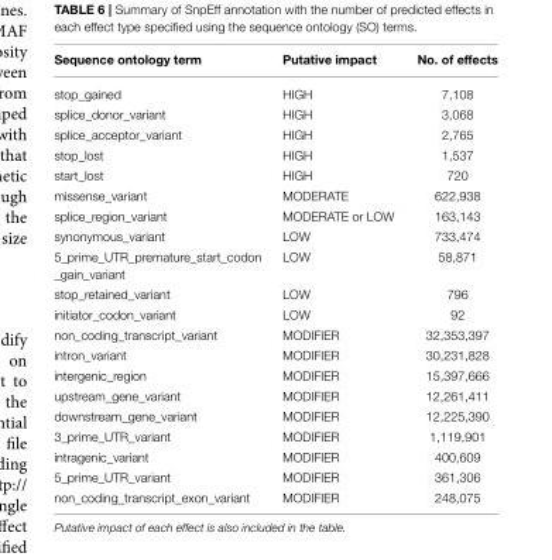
<table><thead><tr><td>Sequence ontology term</td><td>Putative impact</td><td>No. of effects</td></tr></thead><tbody><tr><td>stop_gained</td><td>HIGH</td><td>7,108</td></tr><tr><td>splice_donor_variant</td><td>HIGH</td><td>3,068</td></tr><tr><td>splice_acceptor_variant</td><td>HIGH</td><td>2,765</td></tr><tr><td>stop_lost</td><td>HIGH</td><td>1,537</td></tr><tr><td>start_lost</td><td>HIGH</td><td>720</td></tr><tr><td>missense_variant</td><td>MODERATE</td><td>622,938</td></tr><tr><td>splice_region_variant</td><td>MODERATE or LOW</td><td>163,143</td></tr><tr><td>synonymous_variant</td><td>LOW</td><td>733,474</td></tr><tr><td>5_prime_UTR_premature_start_codon _gain_variant</td><td>LOW</td><td>58,871</td></tr><tr><td>stop_retained_variant</td><td>LOW</td><td>796</td></tr><tr><td>initiator_codon_variant</td><td>LOW</td><td>92</td></tr><tr><td>non_coding_transcript_variant</td><td>MODIFIER</td><td>32,353,397</td></tr><tr><td>intron_variant</td><td>MODIFIER</td><td>30,231,828</td></tr><tr><td>intergenic_region</td><td>MODIFIER</td><td>15,397,666</td></tr><tr><td>upstream_gene_variant</td><td>MODIFIER</td><td>12,261,411</td></tr><tr><td>downstream_gene_variant</td><td>MODIFIER</td><td>12,225,390</td></tr><tr><td>3_prime_UTR_variant</td><td>MODIFIER</td><td>1,119,901</td></tr><tr><td>intragenic_variant</td><td>MODIFIER</td><td>400,609</td></tr><tr><td>5_prime_UTR_variant</td><td>MODIFIER</td><td>361,306</td></tr><tr><td>non_coding_transcript_exon_variant</td><td>MODIFIER</td><td>248,075</td></tr></tbody></table>